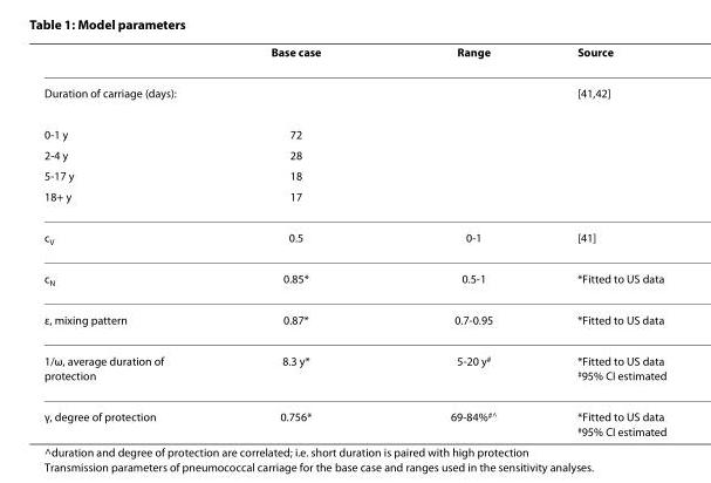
<table><thead><tr><td></td><td>Base case</td><td>Range</td><td>Source</td></tr></thead><tbody><tr><td>Duration of carriage (days):</td><td></td><td></td><td>[41,42]</td></tr><tr><td>0-1 y</td><td>72</td><td></td><td></td></tr><tr><td>2-4 y</td><td>28</td><td></td><td></td></tr><tr><td>5-17 y</td><td>18</td><td></td><td></td></tr><tr><td>18+ y</td><td>17</td><td></td><td></td></tr><tr><td>c<sub>V</sub></td><td>0.5</td><td>0-1</td><td>[41]</td></tr><tr><td>c<sub>N</sub></td><td>0.85*</td><td>0.5-1</td><td>*Fitted to US data</td></tr><tr><td>ε, mixing pattern</td><td>0.87*</td><td>0.7-0.95</td><td>*Fitted to US data</td></tr><tr><td>1/ω, average duration of protection</td><td>8.3 y*</td><td>5-20 y<sup>#</sup></td><td>*Fitted to US data <sup>#</sup>95% CI estimated</td></tr><tr><td>γ, degree of protection</td><td>0.756*</td><td>69-84%#^</td><td>*Fitted to US data <sup>#</sup>95% CI estimated</td></tr></tbody></table>